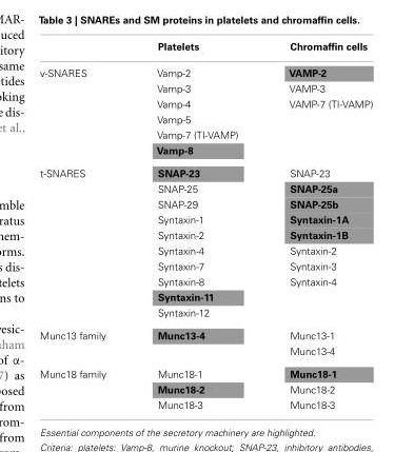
<table><thead><tr><td></td><td>Platelets</td><td>Chromaffin cells</td></tr></thead><tbody><tr><td rowspan="6">v-SNARES</td><td>Vamp-2</td><td>VAMP-2</td></tr><tr><td>Vamp-3</td><td>VAMP-3</td></tr><tr><td>Vamp-4</td><td>VAMP-7 (TI-VAMP)</td></tr><tr><td>Vamp-5</td><td></td></tr><tr><td>Vamp-7 (TI-VAMP)</td><td></td></tr><tr><td>Vamp-8</td><td></td></tr><tr><td rowspan="10">t-SNARES</td><td>SNAP-23</td><td>SNAP-23</td></tr><tr><td>SNAP-25</td><td>SNAP-25a</td></tr><tr><td>SNAP-29</td><td>SNAP-25b</td></tr><tr><td>Syntaxin-1</td><td>Syntaxin-1A</td></tr><tr><td>Syntaxin-2</td><td>Syntaxin-1B</td></tr><tr><td>Syntaxin-4</td><td>Syntaxin-2</td></tr><tr><td>Syntaxin-7</td><td>Syntaxin-3</td></tr><tr><td>Syntaxin-8</td><td>Syntaxin-4</td></tr><tr><td>Syntaxin-11</td><td></td></tr><tr><td>Syntaxin-12</td><td></td></tr><tr><td rowspan="2">Munc13 family</td><td>Munc13-4</td><td>Munc13-1</td></tr><tr><td></td><td>Munc13-4</td></tr><tr><td rowspan="3">Munc18 family</td><td>Munc18-1</td><td>Munc18-1</td></tr><tr><td>Munc18-2</td><td>Munc18-2</td></tr><tr><td>Munc18-3</td><td>Munc18-3</td></tr></tbody></table>